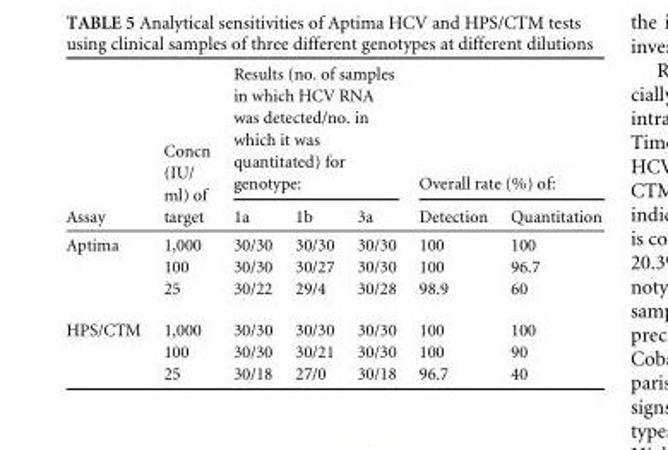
<table><thead><tr><td rowspan="2">Assay</td><td rowspan="2">Concn (IU/ ml) of target</td><td colspan="3">Results (no. of samples in which HCV RNA was detected/no. in which it was quantitated) for genotype:</td><td colspan="2">Overall rate (%) of:</td></tr><tr><td>1a</td><td>1b</td><td>3a</td><td>Detection</td><td>Quantitation</td></tr></thead><tbody><tr><td rowspan="3">Aptima</td><td>1,000</td><td>30/30</td><td>30/30</td><td>30/30</td><td>100</td><td>100</td></tr><tr><td>100</td><td>30/30</td><td>30/27</td><td>30/30</td><td>100</td><td>96.7</td></tr><tr><td>25</td><td>30/22</td><td>29/4</td><td>30/28</td><td>98.9</td><td>60</td></tr><tr><td rowspan="3">HPS/CTM</td><td>1,000</td><td>30/30</td><td>30/30</td><td>30/30</td><td>100</td><td>100</td></tr><tr><td>100</td><td>30/30</td><td>30/21</td><td>30/30</td><td>100</td><td>90</td></tr><tr><td>25</td><td>30/18</td><td>27/0</td><td>30/18</td><td>96.7</td><td>40</td></tr></tbody></table>